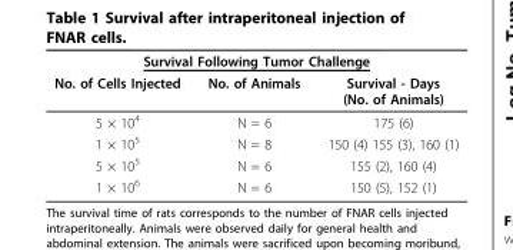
<table><thead><tr><td colspan="3">Survival Following Tumor Challenge</td></tr><tr><td>No. of Cells Injected</td><td>No. of Animals</td><td>Survival - Days (No. of Animals)</td></tr></thead><tbody><tr><td>5 × 10<sup>4</sup></td><td>N = 6</td><td>175 (6)</td></tr><tr><td>1 × 10<sup>5</sup></td><td>N = 8</td><td>150 (4) 155 (3), 160 (1)</td></tr><tr><td>5 × 10<sup>5</sup></td><td>N = 6</td><td>155 (2), 160 (4)</td></tr><tr><td>1 × 10<sup>6</sup></td><td>N = 6</td><td>150 (5), 152 (1)</td></tr></tbody></table>